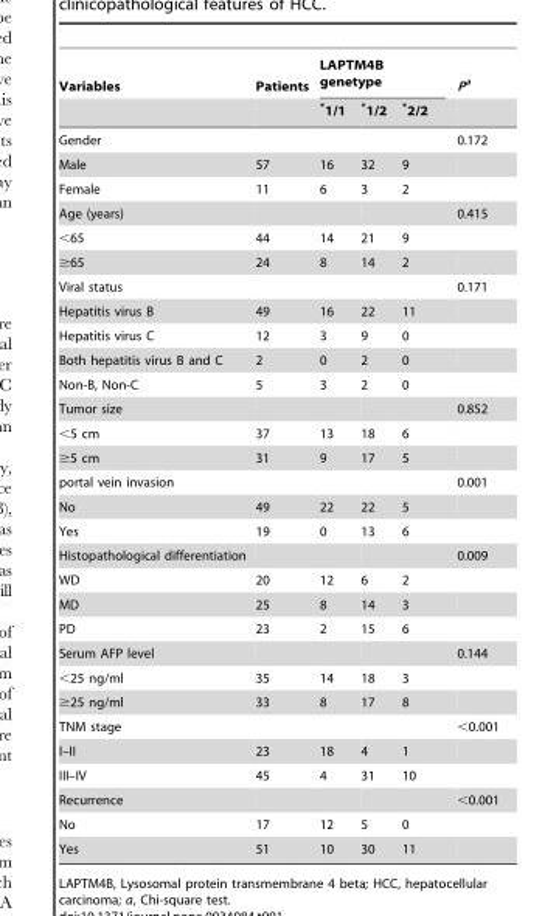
<table><thead><tr><td rowspan="2">Variables</td><td rowspan="2">Patients</td><td colspan="3">LAPTM4B genetype</td><td rowspan="2">P<sup>a</sup></td></tr><tr><td>*1/1</td><td>*1/2</td><td>*2/2</td></tr></thead><tbody><tr><td>Gender</td><td></td><td></td><td></td><td></td><td>0.172</td></tr><tr><td>Male</td><td>57</td><td>16</td><td>32</td><td>9</td><td></td></tr><tr><td>Female</td><td>11</td><td>6</td><td>3</td><td>2</td><td></td></tr><tr><td>Age (years)</td><td></td><td></td><td></td><td></td><td>0.415</td></tr><tr><td>&lt;65</td><td>44</td><td>14</td><td>21</td><td>9</td><td></td></tr><tr><td>≥65</td><td>24</td><td>8</td><td>14</td><td>2</td><td></td></tr><tr><td>Viral status</td><td></td><td></td><td></td><td></td><td>0.171</td></tr><tr><td>Hepatitis virus B</td><td>49</td><td>16</td><td>22</td><td>11</td><td></td></tr><tr><td>Hepatitis virus C</td><td>12</td><td>3</td><td>9</td><td>0</td><td></td></tr><tr><td>Both hepatitis virus B and C</td><td>2</td><td>0</td><td>2</td><td>0</td><td></td></tr><tr><td>Non-B, Non-C</td><td>5</td><td>3</td><td>2</td><td>0</td><td></td></tr><tr><td>Tumor size</td><td></td><td></td><td></td><td></td><td>0.852</td></tr><tr><td>&lt;5 cm</td><td>37</td><td>13</td><td>18</td><td>6</td><td></td></tr><tr><td>≥5 cm</td><td>31</td><td>9</td><td>17</td><td>5</td><td></td></tr><tr><td>portal vein invasion</td><td></td><td></td><td></td><td></td><td>0.001</td></tr><tr><td>No</td><td>49</td><td>22</td><td>22</td><td>5</td><td></td></tr><tr><td>Yes</td><td>19</td><td>0</td><td>13</td><td>6</td><td></td></tr><tr><td>Histopathological differentiation</td><td></td><td></td><td></td><td></td><td>0.009</td></tr><tr><td>WD</td><td>20</td><td>12</td><td>6</td><td>2</td><td></td></tr><tr><td>MD</td><td>25</td><td>8</td><td>14</td><td>3</td><td></td></tr><tr><td>PD</td><td>23</td><td>2</td><td>15</td><td>6</td><td></td></tr><tr><td>Serum AFP level</td><td></td><td></td><td></td><td></td><td>0.144</td></tr><tr><td>&lt;25 ng/ml</td><td>35</td><td>14</td><td>18</td><td>3</td><td></td></tr><tr><td>≥25 ng/ml</td><td>33</td><td>8</td><td>17</td><td>8</td><td></td></tr><tr><td>TNM stage</td><td></td><td></td><td></td><td></td><td>&lt;0.001</td></tr><tr><td>I–II</td><td>23</td><td>18</td><td>4</td><td>1</td><td></td></tr><tr><td>III–IV</td><td>45</td><td>4</td><td>31</td><td>10</td><td></td></tr><tr><td>Recurrence</td><td></td><td></td><td></td><td></td><td>&lt;0.001</td></tr><tr><td>No</td><td>17</td><td>12</td><td>5</td><td>0</td><td></td></tr><tr><td>Yes</td><td>51</td><td>10</td><td>30</td><td>11</td><td></td></tr></tbody></table>